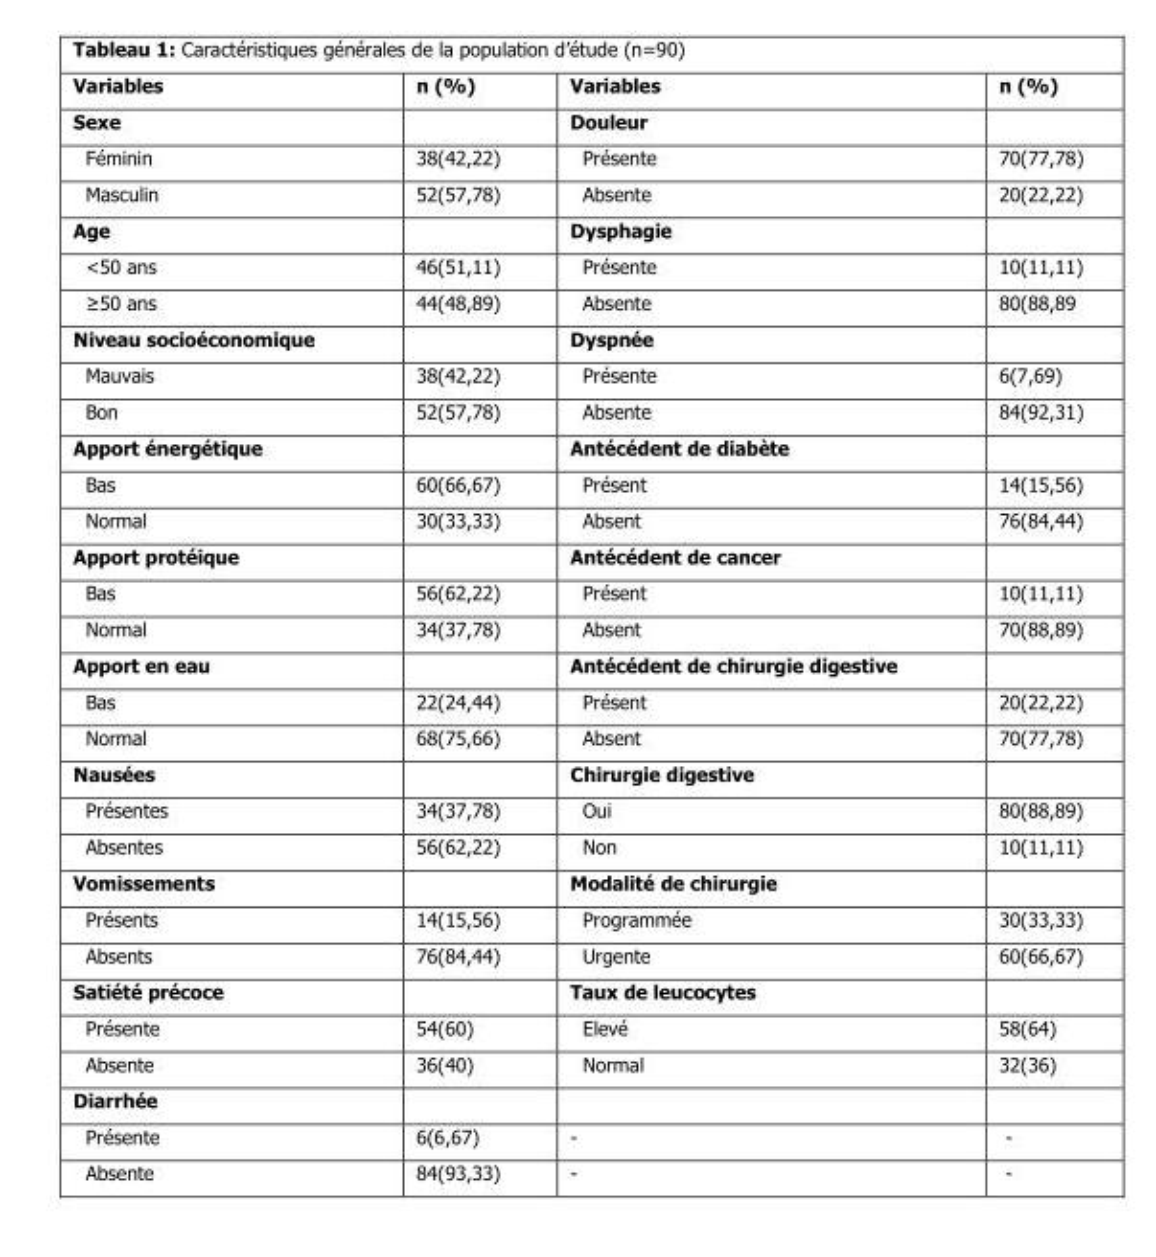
<table><thead><tr><td>Variables</td><td>n (%)</td><td>Variables</td><td>n (%)</td></tr></thead><tbody><tr><td>Sexe</td><td></td><td>Douleur</td><td></td></tr><tr><td>Féminin</td><td>38(42,22)</td><td>Présente</td><td>70(77,78)</td></tr><tr><td>Masculin</td><td>52(57,78)</td><td>Absente</td><td>20(22,22)</td></tr><tr><td>Age</td><td></td><td>Dysphagie</td><td></td></tr><tr><td>&lt;50 ans</td><td>46(51,11)</td><td>Présente</td><td>10(11,11)</td></tr><tr><td>≥50 ans</td><td>44(48,89)</td><td>Absente</td><td>80(88,89</td></tr><tr><td>Niveau socioéconomique</td><td></td><td>Dyspnée</td><td></td></tr><tr><td>Mauvais</td><td>38(42,22)</td><td>Présente</td><td>6(7,69)</td></tr><tr><td>Bon</td><td>52(57,78)</td><td>Absente</td><td>84(92,31)</td></tr><tr><td>Apport énergétique</td><td></td><td>Antécédent de diabète</td><td></td></tr><tr><td>Bas</td><td>60(66,67)</td><td>Présent</td><td>14(15,56)</td></tr><tr><td>Normal</td><td>30(33,33)</td><td>Absent</td><td>76(84,44)</td></tr><tr><td>Apport protéique</td><td></td><td>Antécédent de cancer</td><td></td></tr><tr><td>Bas</td><td>56(62,22)</td><td>Présent</td><td>10(11,11)</td></tr><tr><td>Normal</td><td>34(37,78)</td><td>Absent</td><td>70(88,89)</td></tr><tr><td>Apport en eau</td><td></td><td>Antécédent de chirurgie digestive</td><td></td></tr><tr><td>Bas</td><td>22(24,44)</td><td>Présent</td><td>20(22,22)</td></tr><tr><td>Normal</td><td>68(75,66)</td><td>Absent</td><td>70(77,78)</td></tr><tr><td>Nausées</td><td></td><td>Chirurgie digestive</td><td></td></tr><tr><td>Présentes</td><td>34(37,78)</td><td>Oui</td><td>80(88,89)</td></tr><tr><td>Absentes</td><td>56(62,22)</td><td>Non</td><td>10(11,11)</td></tr><tr><td>Vomissements</td><td></td><td>Modalité de chirurgie</td><td></td></tr><tr><td>Présents</td><td>14(15,56)</td><td>Programmée</td><td>30(33,33)</td></tr><tr><td>Absents</td><td>76(84,44)</td><td>Urgente</td><td>60(66,67)</td></tr><tr><td>Satiété précoce</td><td></td><td>Taux de leucocytes</td><td></td></tr><tr><td>Présente</td><td>54(60)</td><td>Elevé</td><td>58(64)</td></tr><tr><td>Absente</td><td>36(40)</td><td>Normal</td><td>32(36)</td></tr><tr><td colspan="4">Diarrhée</td></tr><tr><td>Présente</td><td>6(6,67)</td><td>-</td><td>-</td></tr><tr><td>Absente</td><td>84(93,33)</td><td>-</td><td>-</td></tr></tbody></table>